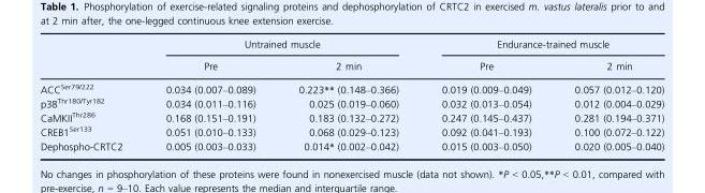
<table><thead><tr><td rowspan="2"></td><td colspan="2">Untrained muscle</td><td colspan="2">Endurance-trained muscle</td></tr><tr><td>Pre</td><td>2 min</td><td>Pre</td><td>2 min</td></tr></thead><tbody><tr><td>ACC<sup>Ser79/222</sup></td><td>0.034 (0.007–0.089)</td><td>0.223** (0.148–0.366)</td><td>0.019 (0.009–0.049)</td><td>0.057 (0.012–0.120)</td></tr><tr><td>p38<sup>Thr180/Tyr182</sup></td><td>0.034 (0.011–0.116)</td><td>0.025 (0.019–0.060)</td><td>0.032 (0.013–0.054)</td><td>0.012 (0.004–0.029)</td></tr><tr><td>CaMKII<sup>Thr286</sup></td><td>0.168 (0.151–0.191)</td><td>0.183 (0.132–0.272)</td><td>0.247 (0.145–0.437)</td><td>0.281 (0.194–0.371)</td></tr><tr><td>CREB1<sup>Ser133</sup></td><td>0.051 (0.010–0.133)</td><td>0.068 (0.029–0.123)</td><td>0.092 (0.041–0.193)</td><td>0.100 (0.072–0.122)</td></tr><tr><td>Dephospho-CRTC2</td><td>0.005 (0.003–0.033)</td><td>0.014* (0.002–0.042)</td><td>0.015 (0.003–0.050)</td><td>0.020 (0.005–0.040)</td></tr></tbody></table>